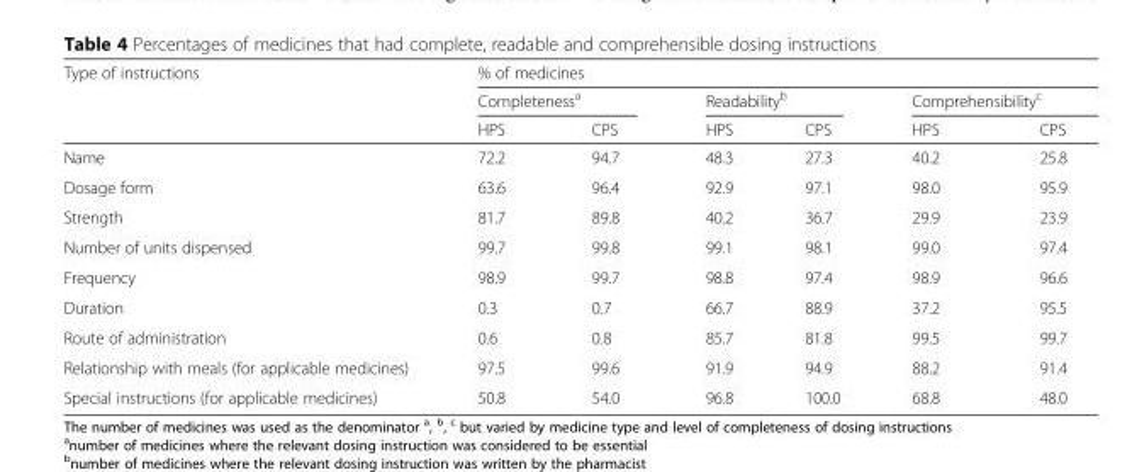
<table><thead><tr><td rowspan="3">Type of instructions</td><td colspan="6">% of medicines</td></tr><tr><td colspan="2">Completeness<sup>a</sup></td><td colspan="2">Readability<sup>b</sup></td><td colspan="2">Comprehensibility<sup>c</sup></td></tr><tr><td>HPS</td><td>CPS</td><td>HPS</td><td>CPS</td><td>HPS</td><td>CPS</td></tr></thead><tbody><tr><td>Name</td><td>72.2</td><td>94.7</td><td>48.3</td><td>27.3</td><td>40.2</td><td>25.8</td></tr><tr><td>Dosage form</td><td>63.6</td><td>96.4</td><td>92.9</td><td>97.1</td><td>98.0</td><td>95.9</td></tr><tr><td>Strength</td><td>81.7</td><td>89.8</td><td>40.2</td><td>36.7</td><td>29.9</td><td>23.9</td></tr><tr><td>Number of units dispensed</td><td>99.7</td><td>99.8</td><td>99.1</td><td>98.1</td><td>99.0</td><td>97.4</td></tr><tr><td>Frequency</td><td>98.9</td><td>99.7</td><td>98.8</td><td>97.4</td><td>98.9</td><td>96.6</td></tr><tr><td>Duration</td><td>0.3</td><td>0.7</td><td>66.7</td><td>88.9</td><td>37.2</td><td>95.5</td></tr><tr><td>Route of administration</td><td>0.6</td><td>0.8</td><td>85.7</td><td>81.8</td><td>99.5</td><td>99.7</td></tr><tr><td>Relationship with meals (for applicable medicines)</td><td>97.5</td><td>99.6</td><td>91.9</td><td>94.9</td><td>88.2</td><td>91.4</td></tr><tr><td>Special instructions (for applicable medicines)</td><td>50.8</td><td>54.0</td><td>96.8</td><td>100.0</td><td>68.8</td><td>48.0</td></tr></tbody></table>